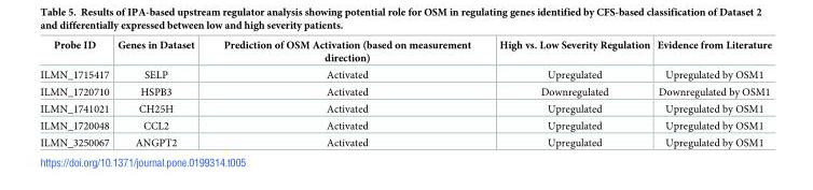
<table><thead><tr><td>Probe ID</td><td>Genes in Dataset</td><td>Prediction of OSM Activation (based on measurement direction)</td><td>High vs. Low Severity Regulation</td><td>Evidence from Literature</td></tr></thead><tbody><tr><td>ILMN_1715417</td><td>SELP</td><td>Activated</td><td>Upregulated</td><td>Upregulated by OSM1</td></tr><tr><td>ILMN_1720710</td><td>HSPB3</td><td>Activated</td><td>Downregulated</td><td>Downregulated by OSM1</td></tr><tr><td>ILMN_1741021</td><td>CH25H</td><td>Activated</td><td>Upregulated</td><td>Upregulated by OSM1</td></tr><tr><td>ILMN_1720048</td><td>CCL2</td><td>Activated</td><td>Upregulated</td><td>Upregulated by OSM1</td></tr><tr><td>ILMN_3250067</td><td>ANGPT2</td><td>Activated</td><td>Upregulated</td><td>Upregulated by OSM1</td></tr></tbody></table>